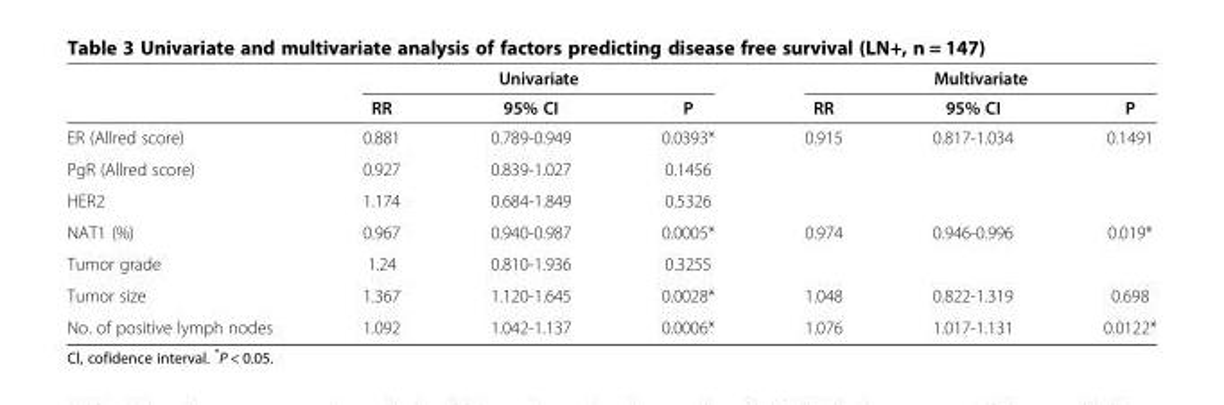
<table><thead><tr><td rowspan="2"></td><td colspan="3">Univariate</td><td colspan="3">Multivariate</td></tr><tr><td>RR</td><td>95% CI</td><td>P</td><td>RR</td><td>95% CI</td><td>P</td></tr></thead><tbody><tr><td>ER (Allred score)</td><td>0.881</td><td>0.789-0.949</td><td>0.0393*</td><td>0.915</td><td>0.817-1.034</td><td>0.1491</td></tr><tr><td>PgR (Allred score)</td><td>0.927</td><td>0.839-1.027</td><td>0.1456</td><td></td><td></td><td></td></tr><tr><td>HER2</td><td>1.174</td><td>0.684-1.849</td><td>0.5326</td><td></td><td></td><td></td></tr><tr><td>NAT1 (%)</td><td>0.967</td><td>0.940-0.987</td><td>0.0005*</td><td>0.974</td><td>0.946-0.996</td><td>0.019*</td></tr><tr><td>Tumor grade</td><td>1.24</td><td>0.810-1.936</td><td>0.3255</td><td></td><td></td><td></td></tr><tr><td>Tumor size</td><td>1.367</td><td>1.120-1.645</td><td>0.0028*</td><td>1.048</td><td>0.822-1.319</td><td>0.698</td></tr><tr><td>No. of positive lymph nodes</td><td>1.092</td><td>1.042-1.137</td><td>0.0006*</td><td>1.076</td><td>1.017-1.131</td><td>0.0122*</td></tr></tbody></table>